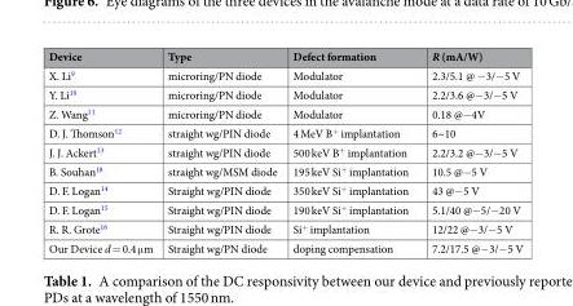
<table><thead><tr><td>Device</td><td>Type</td><td>Defect formation</td><td>R (mA/W)</td></tr></thead><tbody><tr><td>X. Li<sup>9</sup></td><td>microring/PN diode</td><td>Modulator</td><td>2.3/5.1 @ −3/−5 V</td></tr><tr><td>Y. Li<sup>10</sup></td><td>microring/PN diode</td><td>Modulator</td><td>2.2/3.6 @−3/−5 V</td></tr><tr><td>Z. Wang<sup>11</sup></td><td>microring/PN diode</td><td>Modulator</td><td>0.18 @−4V</td></tr><tr><td>D. J. Thomson<sup>12</sup></td><td>straight wg/PIN diode</td><td>4 MeV B<sup>+</sup> implantation</td><td>6~10</td></tr><tr><td>J. J. Ackert<sup>13</sup></td><td>straight wg/PIN diode</td><td>500 keV B<sup>+</sup> implantation</td><td>2.2/3.2 @−3/−5 V</td></tr><tr><td>B. Souhan<sup>18</sup></td><td>straight wg/MSM diode</td><td>195 keV Si<sup>+</sup> implantation</td><td>10.5 @−5 V</td></tr><tr><td>D. F. Logan<sup>14</sup></td><td>Straight wg/PIN diode</td><td>350 keV Si<sup>+</sup> implantation</td><td>43 @−5 V</td></tr><tr><td>D. F. Logan<sup>15</sup></td><td>Straight wg/PIN diode</td><td>190 keV Si<sup>+</sup> implantation</td><td>5.1/40 @−5/−20 V</td></tr><tr><td>R. R. Grote<sup>16</sup></td><td>Straight wg/PIN diode</td><td>Si<sup>+</sup> implantation</td><td>12/22 @−3/−5 V</td></tr><tr><td>Our Device d = 0.4 μm</td><td>Straight wg/PN diode</td><td>doping compensation</td><td>7.2/17.5 @−3/−5 V</td></tr></tbody></table>